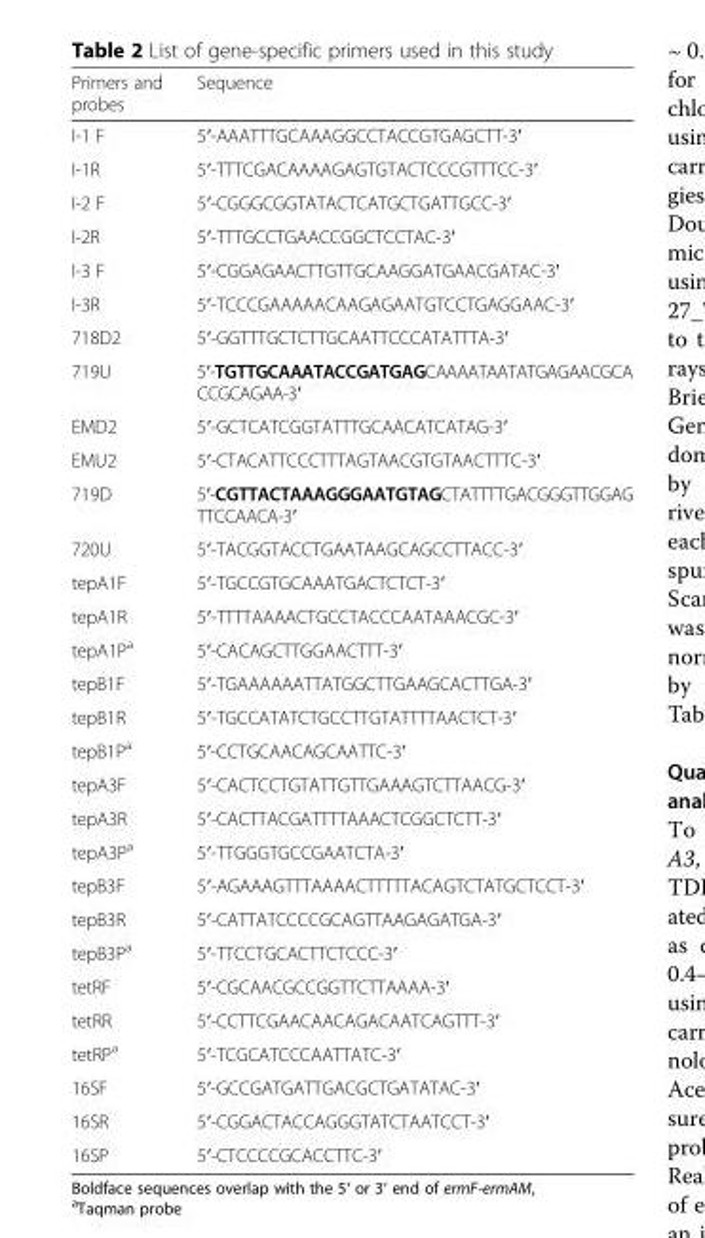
<table><thead><tr><td>Primers and probes</td><td>Sequence</td></tr></thead><tbody><tr><td>I-1 F</td><td>5′-AAATTTGCAAAGGCCTACCGTGAGCTT-3′</td></tr><tr><td>I-1R</td><td>5′-TTTCGACAAAAGAGTGTACTCCCGTTTCC-3′</td></tr><tr><td>I-2 F</td><td>5′-CGGGCGGTATACTCATGCTGATTGCC-3′</td></tr><tr><td>I-2R</td><td>5′-TTTGCCTGAACCGGCTCCTAC-3′</td></tr><tr><td>I-3 F</td><td>5′-CGGAGAACTTGTTGCAAGGATGAACGATAC-3′</td></tr><tr><td>I-3R</td><td>5′-TCCCGAAAAACAAGAGAATGTCCTGAGGAAC-3′</td></tr><tr><td>718D2</td><td>5′-GGTTTGCTCTTGCAATTCCCATATTTA-3′</td></tr><tr><td>719U</td><td>5′-TGTTGCAAATACCGATGAGCAAAATAATATGAGAACGCA CCGCAGAA-3′</td></tr><tr><td>EMD2</td><td>5′-GCTCATCGGTATTTGCAACATCATAG-3′</td></tr><tr><td>EMU2</td><td>5′-CTACATTCCCTTTAGTAACGTGTAACTTTC-3′</td></tr><tr><td>719D</td><td>5′-CGTTACTAAAGGGAATGTAGCTATTTTGACGGGTTGGAG TTCCAACA-3′</td></tr><tr><td>720U</td><td>5′-TACGGTACCTGAATAAGCAGCCTTACC-3′</td></tr><tr><td>tepA1F</td><td>5′-TGCCGTGCAAATGACTCTCT-3′</td></tr><tr><td>tepA1R</td><td>5′-TTTTAAAACTGCCTACCCAATAAACGC-3′</td></tr><tr><td>tepA1P<sup>a</sup></td><td>5′-CACAGCTTGGAACTTT-3′</td></tr><tr><td>tepB1F</td><td>5′-TGAAAAAATTATGGCTTGAAGCACTTGA-3′</td></tr><tr><td>tepB1R</td><td>5′-TGCCATATCTGCCTTGTATTTTAACTCT-3′</td></tr><tr><td>tepB1P<sup>a</sup></td><td>5′-CCTGCAACAGCAATTC-3′</td></tr><tr><td>tepA3F</td><td>5′-CACTCCTGTATTGTTGAAAGTCTTAACG-3′</td></tr><tr><td>tepA3R</td><td>5′-CACTTACGATTTTAAACTCGGCTCTT-3′</td></tr><tr><td>tepA3P<sup>a</sup></td><td>5′-TTGGGTGCCGAATCTA-3′</td></tr><tr><td>tepB3F</td><td>5′-AGAAAGTTTAAAACTTTTTACAGTCTATGCTCCT-3′</td></tr><tr><td>tepB3R</td><td>5′-CATTATCCCCGCAGTTAAGAGATGA-3′</td></tr><tr><td>tepB3P<sup>a</sup></td><td>5′-TTCCTGCACTTCTCCC-3′</td></tr><tr><td>tetRF</td><td>5′-CGCAACGCCGGTTCTTAAAA-3′</td></tr><tr><td>tetRR</td><td>5′-CCTTCGAACAACAGACAATCAGTTT-3′</td></tr><tr><td>tetRP<sup>a</sup></td><td>5′-TCGCATCCCAATTATC-3′</td></tr><tr><td>16SF</td><td>5′-GCCGATGATTGACGCTGATATAC-3′</td></tr><tr><td>16SR</td><td>5′-CGGACTACCAGGGTATCTAATCCT-3′</td></tr><tr><td>16SP</td><td>5′-CTCCCCGCACCTTC-3′</td></tr></tbody></table>